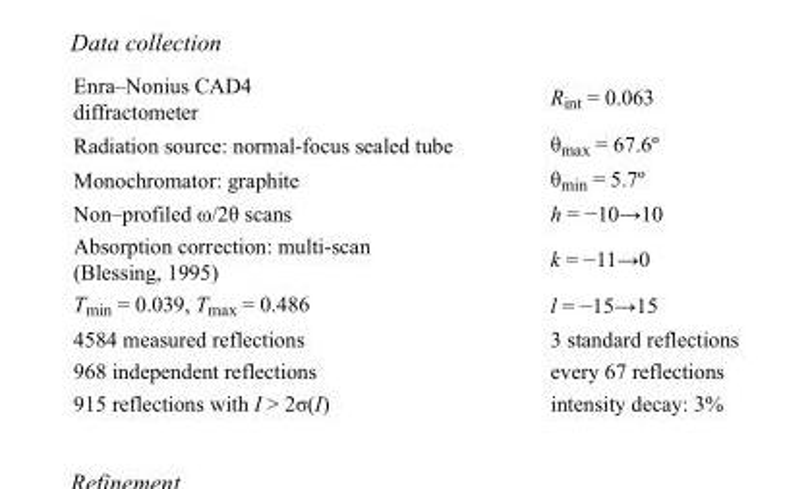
<table><tbody><tr><td>Enra–Nonius CAD4 diffractometer</td><td>R<sub>int</sub> = 0.063</td></tr><tr><td>Radiation source: normal-focus sealed tube</td><td>θ<sub>max</sub> = 67.6º</td></tr><tr><td>Monochromator: graphite</td><td>θ<sub>min</sub> = 5.7º</td></tr><tr><td>Non–profiled ω/2θ scans</td><td>h = −10→10</td></tr><tr><td>Absorption correction: multi-scan (Blessing, 1995)</td><td>k = −11→0</td></tr><tr><td>T<sub>min</sub> = 0.039, T<sub>max</sub> = 0.486</td><td>l = −15→15</td></tr><tr><td>4584 measured reflections</td><td>3 standard reflections</td></tr><tr><td>968 independent reflections</td><td>every 67 reflections</td></tr><tr><td>915 reflections with I &gt; 2σ(I)</td><td>intensity decay: 3%</td></tr></tbody></table>